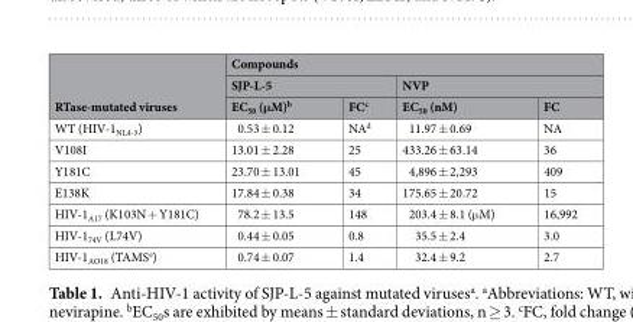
<table><thead><tr><td rowspan="3">RTase-mutated viruses</td><td colspan="4">Compounds</td></tr><tr><td colspan="2">SJP-L-5</td><td colspan="2">NVP</td></tr><tr><td>EC<sub>50</sub> (μM)<sup>b</sup></td><td>FC<sup>c</sup></td><td>EC<sub>50</sub> (nM)</td><td>FC</td></tr></thead><tbody><tr><td>WT (HIV-1<sub>NL4-3</sub>)</td><td>0.53 ± 0.12</td><td>NA<sup>d</sup></td><td>11.97 ± 0.69</td><td>NA</td></tr><tr><td>V108I</td><td>13.01 ± 2.28</td><td>25</td><td>433.26 ± 63.14</td><td>36</td></tr><tr><td>Y181C</td><td>23.70 ± 13.01</td><td>45</td><td>4,896 ± 2,293</td><td>409</td></tr><tr><td>E138K</td><td>17.84 ± 0.38</td><td>34</td><td>175.65 ± 20.72</td><td>15</td></tr><tr><td>HIV-1<sub>A17</sub> (K103N + Y181C)</td><td>78.2 ± 13.5</td><td>148</td><td>203.4 ± 8.1 (μM)</td><td>16,992</td></tr><tr><td>HIV-1<sub>74V</sub> (L74V)</td><td>0.44 ± 0.05</td><td>0.8</td><td>35.5 ± 2.4</td><td>3.0</td></tr><tr><td>HIV-1<sub>AO18</sub> (TAMS<sup>e</sup>)</td><td>0.74 ± 0.07</td><td>1.4</td><td>32.4 ± 9.2</td><td>2.7</td></tr></tbody></table>